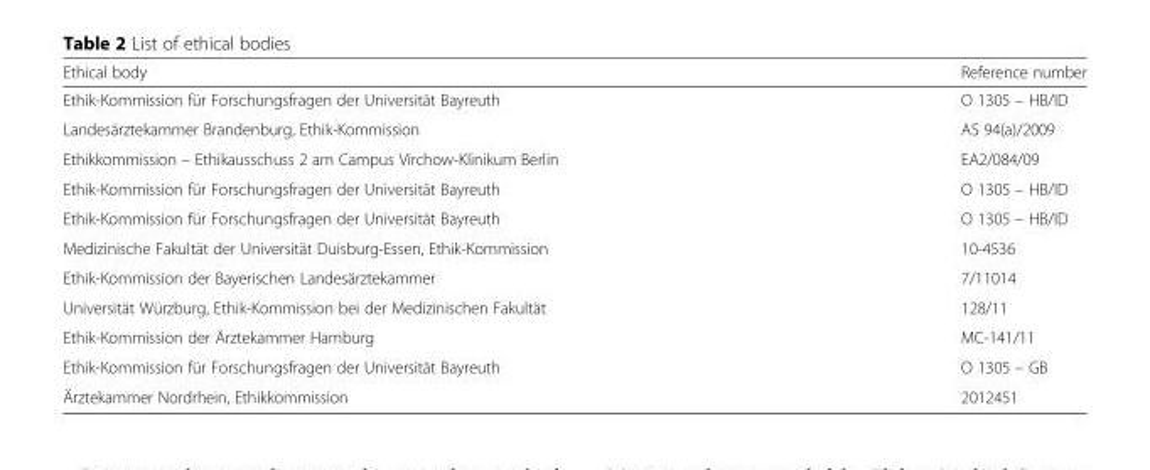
<table><thead><tr><td>Ethical body</td><td>Reference number</td></tr></thead><tbody><tr><td>Ethik-Kommission für Forschungsfragen der Universität Bayreuth</td><td>O 1305 – HB/ID</td></tr><tr><td>Landesärztekammer Brandenburg, Ethik-Kommission</td><td>AS 94(a)/2009</td></tr><tr><td>Ethikkommission – Ethikausschuss 2 am Campus Virchow-Klinikum Berlin</td><td>EA2/084/09</td></tr><tr><td>Ethik-Kommission für Forschungsfragen der Universität Bayreuth</td><td>O 1305 – HB/ID</td></tr><tr><td>Ethik-Kommission für Forschungsfragen der Universität Bayreuth</td><td>O 1305 – HB/ID</td></tr><tr><td>Medizinische Fakultät der Universität Duisburg-Essen, Ethik-Kommission</td><td>10-4536</td></tr><tr><td>Ethik-Kommission der Bayerischen Landesärztekammer</td><td>7/11014</td></tr><tr><td>Universität Würzburg, Ethik-Kommission bei der Medizinischen Fakultät</td><td>128/11</td></tr><tr><td>Ethik-Kommission der Ärztekammer Hamburg</td><td>MC-141/11</td></tr><tr><td>Ethik-Kommission für Forschungsfragen der Universität Bayreuth</td><td>O 1305 – GB</td></tr><tr><td>Ärztekammer Nordrhein, Ethikkommission</td><td>2012451</td></tr></tbody></table>